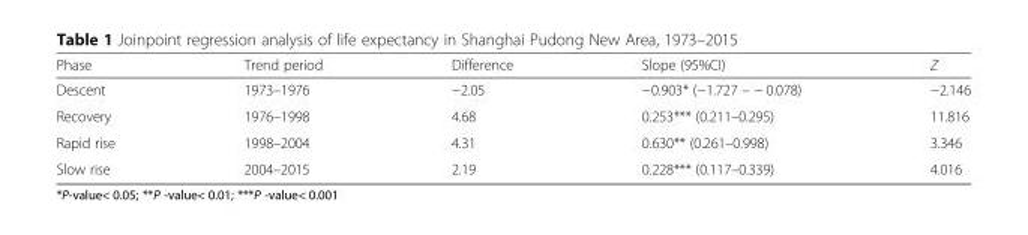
<table><thead><tr><td>Phase</td><td>Trend period</td><td>Difference</td><td>Slope (95%CI)</td><td>Z</td></tr></thead><tbody><tr><td>Descent</td><td>1973–1976</td><td>−2.05</td><td>−0.903* (−1.727 – − 0.078)</td><td>−2.146</td></tr><tr><td>Recovery</td><td>1976–1998</td><td>4.68</td><td>0.253*** (0.211–0.295)</td><td>11.816</td></tr><tr><td>Rapid rise</td><td>1998–2004</td><td>4.31</td><td>0.630** (0.261–0.998)</td><td>3.346</td></tr><tr><td>Slow rise</td><td>2004–2015</td><td>2.19</td><td>0.228*** (0.117–0.339)</td><td>4.016</td></tr></tbody></table>